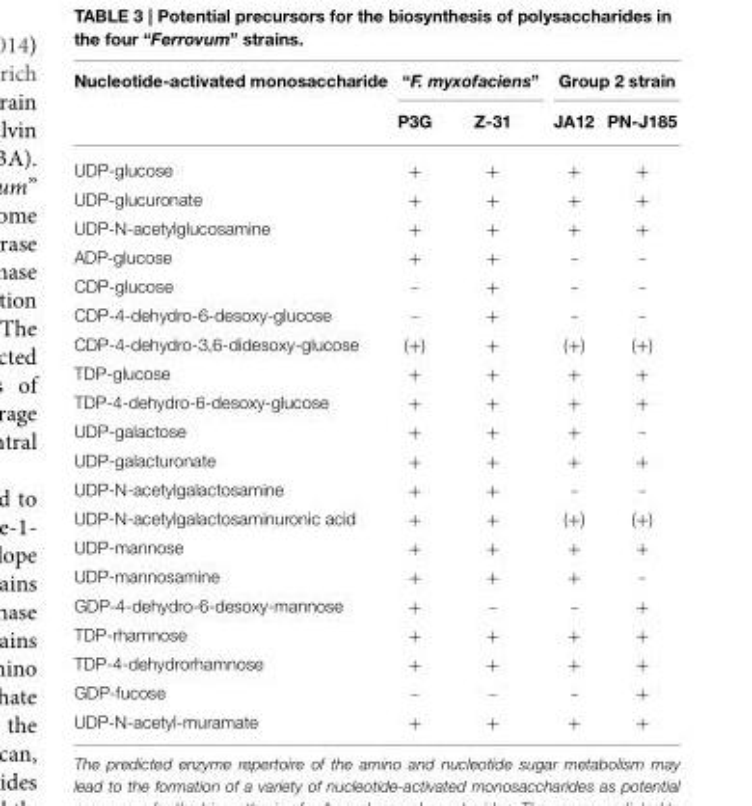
<table><thead><tr><td rowspan="2">Nucleotide-activated monosaccharide</td><td colspan="2">“F. myxofaciens”</td><td colspan="2">Group 2 strain</td></tr><tr><td>P3G</td><td>Z-31</td><td>JA12</td><td>PN-J185</td></tr></thead><tbody><tr><td>UDP-glucose</td><td>+</td><td>+</td><td>+</td><td>+</td></tr><tr><td>UDP-glucuronate</td><td>+</td><td>+</td><td>+</td><td>+</td></tr><tr><td>UDP-N-acetylglucosamine</td><td>+</td><td>+</td><td>+</td><td>+</td></tr><tr><td>ADP-glucose</td><td>+</td><td>+</td><td>-</td><td>-</td></tr><tr><td>CDP-glucose</td><td>-</td><td>+</td><td>-</td><td>-</td></tr><tr><td>CDP-4-dehydro-6-desoxy-glucose</td><td>-</td><td>+</td><td>-</td><td>-</td></tr><tr><td>CDP-4-dehydro-3,6-didesoxy-glucose</td><td>(+)</td><td>+</td><td>(+)</td><td>(+)</td></tr><tr><td>TDP-glucose</td><td>+</td><td>+</td><td>+</td><td>+</td></tr><tr><td>TDP-4-dehydro-6-desoxy-glucose</td><td>+</td><td>+</td><td>+</td><td>+</td></tr><tr><td>UDP-galactose</td><td>+</td><td>+</td><td>+</td><td>-</td></tr><tr><td>UDP-galacturonate</td><td>+</td><td>+</td><td>+</td><td>+</td></tr><tr><td>UDP-N-acetylgalactosamine</td><td>+</td><td>+</td><td>-</td><td>-</td></tr><tr><td>UDP-N-acetylgalactosaminuronic acid</td><td>+</td><td>+</td><td>(+)</td><td>(+)</td></tr><tr><td>UDP-mannose</td><td>+</td><td>+</td><td>+</td><td>+</td></tr><tr><td>UDP-mannosamine</td><td>+</td><td>+</td><td>+</td><td>-</td></tr><tr><td>GDP-4-dehydro-6-desoxy-mannose</td><td>+</td><td>-</td><td>-</td><td>+</td></tr><tr><td>TDP-rhamnose</td><td>+</td><td>+</td><td>+</td><td>+</td></tr><tr><td>TDP-4-dehydrorhamnose</td><td>+</td><td>+</td><td>+</td><td>+</td></tr><tr><td>GDP-fucose</td><td>-</td><td>-</td><td>-</td><td>+</td></tr><tr><td>UDP-N-acetyl-muramate</td><td>+</td><td>+</td><td>+</td><td>+</td></tr></tbody></table>